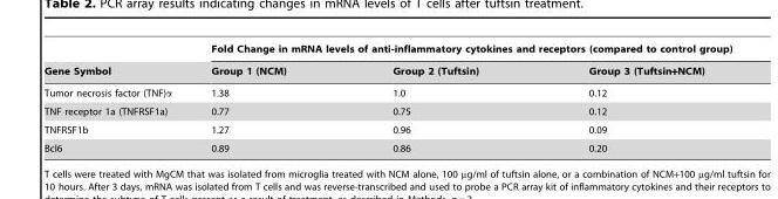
<table><thead><tr><td rowspan="2">Gene Symbol</td><td colspan="3">Fold Change in mRNA levels of anti-inflammatory cytokines and receptors (compared to control group)</td></tr><tr><td>Group 1 (NCM)</td><td>Group 2 (Tuftsin)</td><td>Group 3 (Tuftsin+NCM)</td></tr></thead><tbody><tr><td>Tumor necrosis factor (TNF)α</td><td>1.38</td><td>1.0</td><td>0.12</td></tr><tr><td>TNF receptor 1a (TNFRSF1a)</td><td>0.77</td><td>0.75</td><td>0.12</td></tr><tr><td>TNFRSF1b</td><td>1.27</td><td>0.96</td><td>0.09</td></tr><tr><td>Bcl6</td><td>0.89</td><td>0.86</td><td>0.20</td></tr></tbody></table>